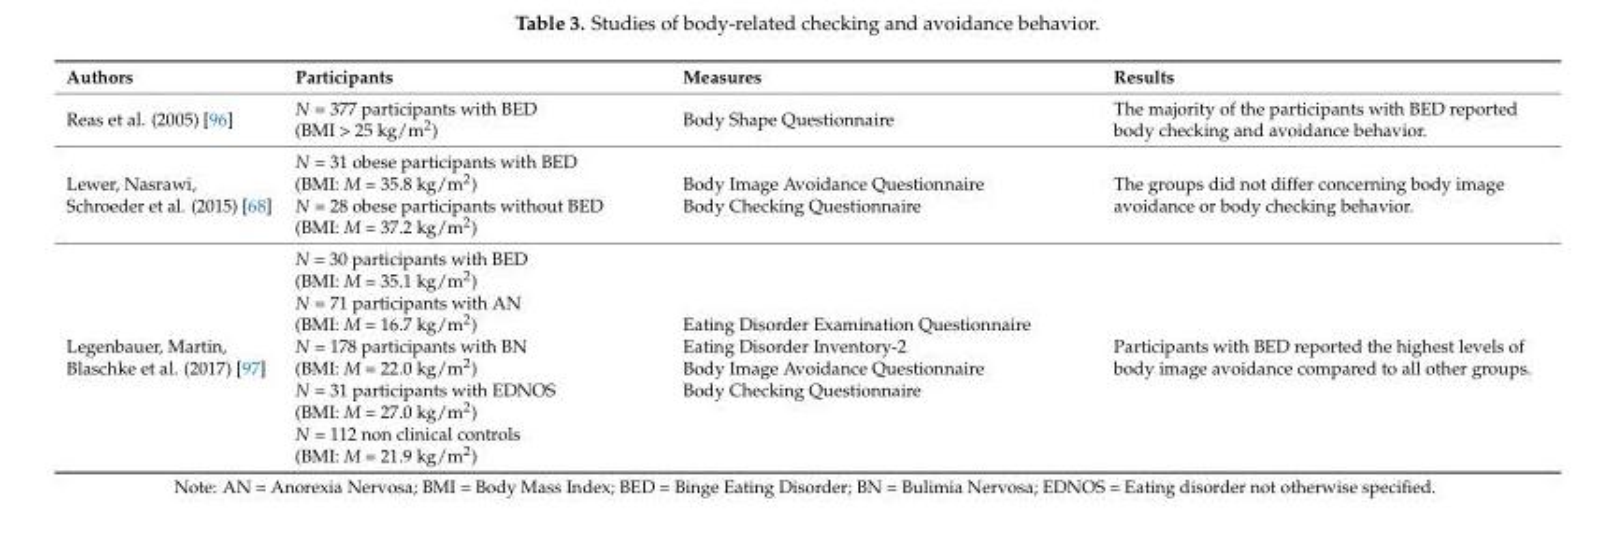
<table><thead><tr><td>Authors</td><td>Participants</td><td>Measures</td><td>Results</td></tr></thead><tbody><tr><td>Reas et al. (2005) [96]</td><td>N = 377 participants with BED (BMI &gt; 25 kg/m<sup>2</sup>)</td><td>Body Shape Questionnaire</td><td>The majority of the participants with BED reported body checking and avoidance behavior.</td></tr><tr><td>Lewer, Nasrawi, Schroeder et al. (2015) [68]</td><td>N = 31 obese participants with BED (BMI: M = 35.8 kg/m<sup>2</sup>) N = 28 obese participants without BED (BMI: M = 37.2 kg/m<sup>2</sup>)</td><td>Body Image Avoidance Questionnaire Body Checking Questionnaire</td><td>The groups did not differ concerning body image avoidance or body checking behavior.</td></tr><tr><td>Legenbauer, Martin, Blaschke et al. (2017) [97]</td><td>N = 30 participants with BED (BMI: M = 35.1 kg/m<sup>2</sup>) N = 71 participants with AN (BMI: M = 16.7 kg/m<sup>2</sup>) N = 178 participants with BN (BMI: M = 22.0 kg/m<sup>2</sup>) N = 31 participants with EDNOS (BMI: M = 27.0 kg/m<sup>2</sup>) N = 112 non clinical controls (BMI: M = 21.9 kg/m<sup>2</sup>)</td><td>Eating Disorder Examination Questionnaire Eating Disorder Inventory-2 Body Image Avoidance Questionnaire Body Checking Questionnaire</td><td>Participants with BED reported the highest levels of body image avoidance compared to all other groups.</td></tr></tbody></table>